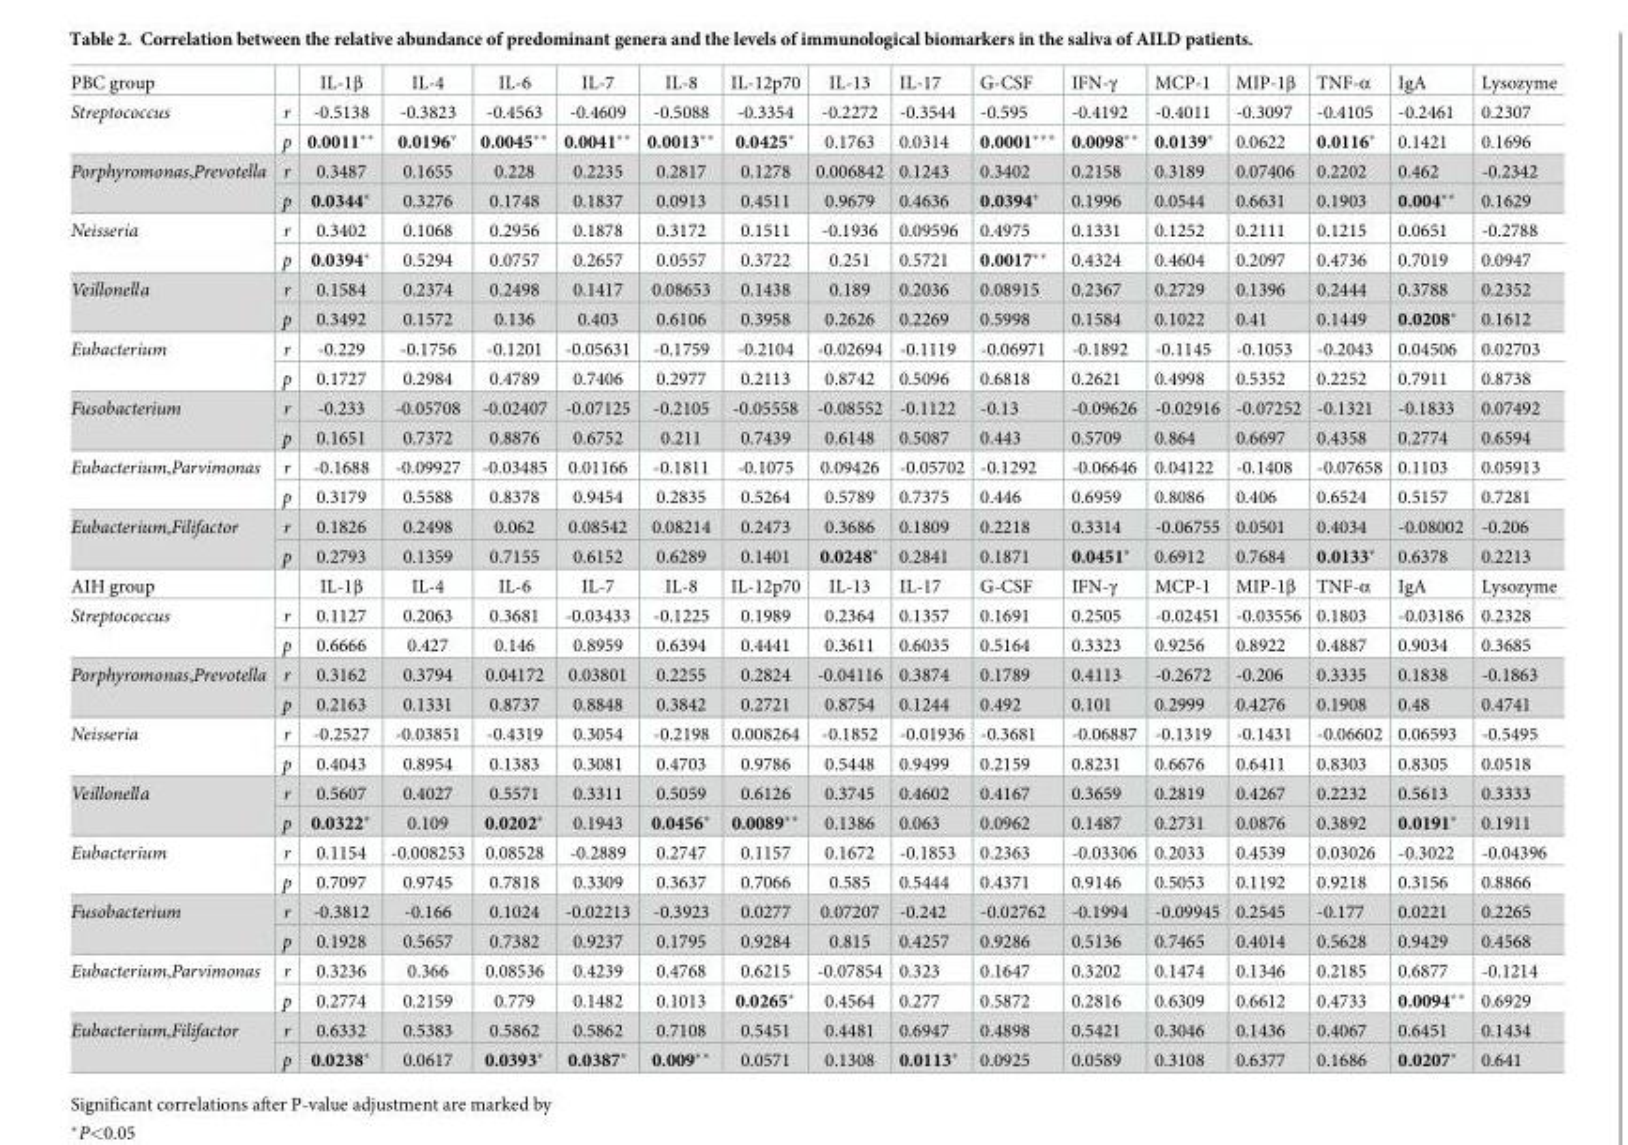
<table><tbody><tr><td>PBC group</td><td></td><td>IL-1β</td><td>IL-4</td><td>IL-6</td><td>IL-7</td><td>IL-8</td><td>IL-12p70</td><td>IL-13</td><td>IL-17</td><td>G-CSF</td><td>IFN-γ</td><td>MCP-1</td><td>MIP-1β</td><td>TNF-α</td><td>IgA</td><td>Lysozyme</td></tr><tr><td rowspan="2">Streptococcus</td><td>r</td><td>-0.5138</td><td>-0.3823</td><td>-0.4563</td><td>-0.4609</td><td>-0.5088</td><td>-0.3354</td><td>-0.2272</td><td>-0.3544</td><td>-0.595</td><td>-0.4192</td><td>-0.4011</td><td>-0.3097</td><td>-0.4105</td><td>-0.2461</td><td>0.2307</td></tr><tr><td>p</td><td>0.0011**</td><td>0.0196*</td><td>0.0045**</td><td>0.0041**</td><td>0.0013**</td><td>0.0425*</td><td>0.1763</td><td>0.0314</td><td>0.0001***</td><td>0.0098**</td><td>0.0139*</td><td>0.0622</td><td>0.0116*</td><td>0.1421</td><td>0.1696</td></tr><tr><td rowspan="2">Porphyromonas,Prevotella</td><td>r</td><td>0.3487</td><td>0.1655</td><td>0.228</td><td>0.2235</td><td>0.2817</td><td>0.1278</td><td>0.006842</td><td>0.1243</td><td>0.3402</td><td>0.2158</td><td>0.3189</td><td>0.07406</td><td>0.2202</td><td>0.462</td><td>-0.2342</td></tr><tr><td>p</td><td>0.0344*</td><td>0.3276</td><td>0.1748</td><td>0.1837</td><td>0.0913</td><td>0.4511</td><td>0.9679</td><td>0.4636</td><td>0.0394*</td><td>0.1996</td><td>0.0544</td><td>0.6631</td><td>0.1903</td><td>0.004**</td><td>0.1629</td></tr><tr><td rowspan="2">Neisseria</td><td>r</td><td>0.3402</td><td>0.1068</td><td>0.2956</td><td>0.1878</td><td>0.3172</td><td>0.1511</td><td>-0.1936</td><td>0.09596</td><td>0.4975</td><td>0.1331</td><td>0.1252</td><td>0.2111</td><td>0.1215</td><td>0.0651</td><td>-0.2788</td></tr><tr><td>p</td><td>0.0394*</td><td>0.5294</td><td>0.0757</td><td>0.2657</td><td>0.0557</td><td>0.3722</td><td>0.251</td><td>0.5721</td><td>0.0017**</td><td>0.4324</td><td>0.4604</td><td>0.2097</td><td>0.4736</td><td>0.7019</td><td>0.0947</td></tr><tr><td rowspan="2">Veillonella</td><td>r</td><td>0.1584</td><td>0.2374</td><td>0.2498</td><td>0.1417</td><td>0.08653</td><td>0.1438</td><td>0.189</td><td>0.2036</td><td>0.08915</td><td>0.2367</td><td>0.2729</td><td>0.1396</td><td>0.2444</td><td>0.3788</td><td>0.2352</td></tr><tr><td>p</td><td>0.3492</td><td>0.1572</td><td>0.136</td><td>0.403</td><td>0.6106</td><td>0.3958</td><td>0.2626</td><td>0.2269</td><td>0.5998</td><td>0.1584</td><td>0.1022</td><td>0.41</td><td>0.1449</td><td>0.0208*</td><td>0.1612</td></tr><tr><td rowspan="2">Eubacterium</td><td>r</td><td>-0.229</td><td>-0.1756</td><td>-0.1201</td><td>-0.05631</td><td>-0.1759</td><td>-0.2104</td><td>-0.02694</td><td>-0.1119</td><td>-0.06971</td><td>-0.1892</td><td>-0.1145</td><td>-0.1053</td><td>-0.2043</td><td>0.04506</td><td>0.02703</td></tr><tr><td>p</td><td>0.1727</td><td>0.2984</td><td>0.4789</td><td>0.7406</td><td>0.2977</td><td>0.2113</td><td>0.8742</td><td>0.5096</td><td>0.6818</td><td>0.2621</td><td>0.4998</td><td>0.5352</td><td>0.2252</td><td>0.7911</td><td>0.8738</td></tr><tr><td rowspan="2">Fusobacterium</td><td>r</td><td>-0.233</td><td>-0.05708</td><td>-0.02407</td><td>-0.07125</td><td>-0.2105</td><td>-0.05558</td><td>-0.08552</td><td>-0.1122</td><td>-0.13</td><td>-0.09626</td><td>-0.02916</td><td>-0.07252</td><td>-0.1321</td><td>-0.1833</td><td>0.07492</td></tr><tr><td>p</td><td>0.1651</td><td>0.7372</td><td>0.8876</td><td>0.6752</td><td>0.211</td><td>0.7439</td><td>0.6148</td><td>0.5087</td><td>0.443</td><td>0.5709</td><td>0.864</td><td>0.6697</td><td>0.4358</td><td>0.2774</td><td>0.6594</td></tr><tr><td rowspan="2">Eubacterium,Parvimonas</td><td>r</td><td>-0.1688</td><td>-0.09927</td><td>-0.03485</td><td>0.01166</td><td>-0.1811</td><td>-0.1075</td><td>0.09426</td><td>-0.05702</td><td>-0.1292</td><td>-0.06646</td><td>0.04122</td><td>-0.1408</td><td>-0.07658</td><td>0.1103</td><td>0.05913</td></tr><tr><td>p</td><td>0.3179</td><td>0.5588</td><td>0.8378</td><td>0.9454</td><td>0.2835</td><td>0.5264</td><td>0.5789</td><td>0.7375</td><td>0.446</td><td>0.6959</td><td>0.8086</td><td>0.406</td><td>0.6524</td><td>0.5157</td><td>0.7281</td></tr><tr><td rowspan="2">Eubacterium,Filifactor</td><td>r</td><td>0.1826</td><td>0.2498</td><td>0.062</td><td>0.08542</td><td>0.08214</td><td>0.2473</td><td>0.3686</td><td>0.1809</td><td>0.2218</td><td>0.3314</td><td>-0.06755</td><td>0.0501</td><td>0.4034</td><td>-0.08002</td><td>-0.206</td></tr><tr><td>p</td><td>0.2793</td><td>0.1359</td><td>0.7155</td><td>0.6152</td><td>0.6289</td><td>0.1401</td><td>0.0248*</td><td>0.2841</td><td>0.1871</td><td>0.0451*</td><td>0.6912</td><td>0.7684</td><td>0.0133*</td><td>0.6378</td><td>0.2213</td></tr><tr><td>AIH group</td><td></td><td>IL-1β</td><td>IL-4</td><td>IL-6</td><td>IL-7</td><td>IL-8</td><td>IL-12p70</td><td>IL-13</td><td>IL-17</td><td>G-CSF</td><td>IFN-γ</td><td>MCP-1</td><td>MIP-1β</td><td>TNF-α</td><td>IgA</td><td>Lysozyme</td></tr><tr><td rowspan="2">Streptococcus</td><td>r</td><td>0.1127</td><td>0.2063</td><td>0.3681</td><td>-0.03433</td><td>-0.1225</td><td>0.1989</td><td>0.2364</td><td>0.1357</td><td>0.1691</td><td>0.2505</td><td>-0.02451</td><td>-0.03556</td><td>0.1803</td><td>-0.03186</td><td>0.2328</td></tr><tr><td>p</td><td>0.6666</td><td>0.427</td><td>0.146</td><td>0.8959</td><td>0.6394</td><td>0.4441</td><td>0.3611</td><td>0.6035</td><td>0.5164</td><td>0.3323</td><td>0.9256</td><td>0.8922</td><td>0.4887</td><td>0.9034</td><td>0.3685</td></tr><tr><td rowspan="2">Porphyromonas,Prevotella</td><td>r</td><td>0.3162</td><td>0.3794</td><td>0.04172</td><td>0.03801</td><td>0.2255</td><td>0.2824</td><td>-0.04116</td><td>0.3874</td><td>0.1789</td><td>0.4113</td><td>-0.2672</td><td>-0.206</td><td>0.3335</td><td>0.1838</td><td>-0.1863</td></tr><tr><td>p</td><td>0.2163</td><td>0.1331</td><td>0.8737</td><td>0.8848</td><td>0.3842</td><td>0.2721</td><td>0.8754</td><td>0.1244</td><td>0.492</td><td>0.101</td><td>0.2999</td><td>0.4276</td><td>0.1908</td><td>0.48</td><td>0.4741</td></tr><tr><td rowspan="2">Neisseria</td><td>r</td><td>-0.2527</td><td>-0.03851</td><td>-0.4319</td><td>0.3054</td><td>-0.2198</td><td>0.008264</td><td>-0.1852</td><td>-0.01936</td><td>-0.3681</td><td>-0.06887</td><td>-0.1319</td><td>-0.1431</td><td>-0.06602</td><td>0.06593</td><td>-0.5495</td></tr><tr><td>p</td><td>0.4043</td><td>0.8954</td><td>0.1383</td><td>0.3081</td><td>0.4703</td><td>0.9786</td><td>0.5448</td><td>0.9499</td><td>0.2159</td><td>0.8231</td><td>0.6676</td><td>0.6411</td><td>0.8303</td><td>0.8305</td><td>0.0518</td></tr><tr><td rowspan="2">Veillonella</td><td>r</td><td>0.5607</td><td>0.4027</td><td>0.5571</td><td>0.3311</td><td>0.5059</td><td>0.6126</td><td>0.3745</td><td>0.4602</td><td>0.4167</td><td>0.3659</td><td>0.2819</td><td>0.4267</td><td>0.2232</td><td>0.5613</td><td>0.3333</td></tr><tr><td>p</td><td>0.0322*</td><td>0.109</td><td>0.0202*</td><td>0.1943</td><td>0.0456*</td><td>0.0089**</td><td>0.1386</td><td>0.063</td><td>0.0962</td><td>0.1487</td><td>0.2731</td><td>0.0876</td><td>0.3892</td><td>0.0191*</td><td>0.1911</td></tr><tr><td rowspan="2">Eubacterium</td><td>r</td><td>0.1154</td><td>-0.008253</td><td>0.08528</td><td>-0.2889</td><td>0.2747</td><td>0.1157</td><td>0.1672</td><td>-0.1853</td><td>0.2363</td><td>-0.03306</td><td>0.2033</td><td>0.4539</td><td>0.03026</td><td>-0.3022</td><td>-0.04396</td></tr><tr><td>p</td><td>0.7097</td><td>0.9745</td><td>0.7818</td><td>0.3309</td><td>0.3637</td><td>0.7066</td><td>0.585</td><td>0.5444</td><td>0.4371</td><td>0.9146</td><td>0.5053</td><td>0.1192</td><td>0.9218</td><td>0.3156</td><td>0.8866</td></tr><tr><td rowspan="2">Fusobacterium</td><td>r</td><td>-0.3812</td><td>-0.166</td><td>0.1024</td><td>-0.02213</td><td>-0.3923</td><td>0.0277</td><td>0.07207</td><td>-0.242</td><td>-0.02762</td><td>-0.1994</td><td>-0.09945</td><td>0.2545</td><td>-0.177</td><td>0.0221</td><td>0.2265</td></tr><tr><td>p</td><td>0.1928</td><td>0.5657</td><td>0.7382</td><td>0.9237</td><td>0.1795</td><td>0.9284</td><td>0.815</td><td>0.4257</td><td>0.9286</td><td>0.5136</td><td>0.7465</td><td>0.4014</td><td>0.5628</td><td>0.9429</td><td>0.4568</td></tr><tr><td rowspan="2">Eubacterium,Parvimonas</td><td>r</td><td>0.3236</td><td>0.366</td><td>0.08536</td><td>0.4239</td><td>0.4768</td><td>0.6215</td><td>-0.07854</td><td>0.323</td><td>0.1647</td><td>0.3202</td><td>0.1474</td><td>0.1346</td><td>0.2185</td><td>0.6877</td><td>-0.1214</td></tr><tr><td>p</td><td>0.2774</td><td>0.2159</td><td>0.779</td><td>0.1482</td><td>0.1013</td><td>0.0265*</td><td>0.4564</td><td>0.277</td><td>0.5872</td><td>0.2816</td><td>0.6309</td><td>0.6612</td><td>0.4733</td><td>0.0094**</td><td>0.6929</td></tr><tr><td rowspan="2">Eubacterium,Filifactor</td><td>r</td><td>0.6332</td><td>0.5383</td><td>0.5862</td><td>0.5862</td><td>0.7108</td><td>0.5451</td><td>0.4481</td><td>0.6947</td><td>0.4898</td><td>0.5421</td><td>0.3046</td><td>0.1436</td><td>0.4067</td><td>0.6451</td><td>0.1434</td></tr><tr><td>p</td><td>0.0238*</td><td>0.0617</td><td>0.0393*</td><td>0.0387*</td><td>0.009**</td><td>0.0571</td><td>0.1308</td><td>0.0113*</td><td>0.0925</td><td>0.0589</td><td>0.3108</td><td>0.6377</td><td>0.1686</td><td>0.0207*</td><td>0.641</td></tr></tbody></table>